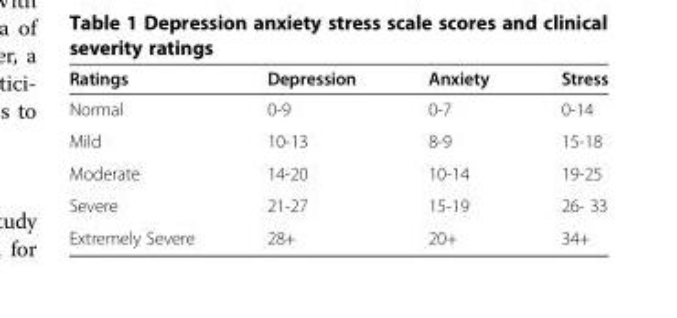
<table><thead><tr><td>Ratings</td><td>Depression</td><td>Anxiety</td><td>Stress</td></tr></thead><tbody><tr><td>Normal</td><td>0-9</td><td>0-7</td><td>0-14</td></tr><tr><td>Mild</td><td>10-13</td><td>8-9</td><td>15-18</td></tr><tr><td>Moderate</td><td>14-20</td><td>10-14</td><td>19-25</td></tr><tr><td>Severe</td><td>21-27</td><td>15-19</td><td>26- 33</td></tr><tr><td>Extremely Severe</td><td>28+</td><td>20+</td><td>34+</td></tr></tbody></table>